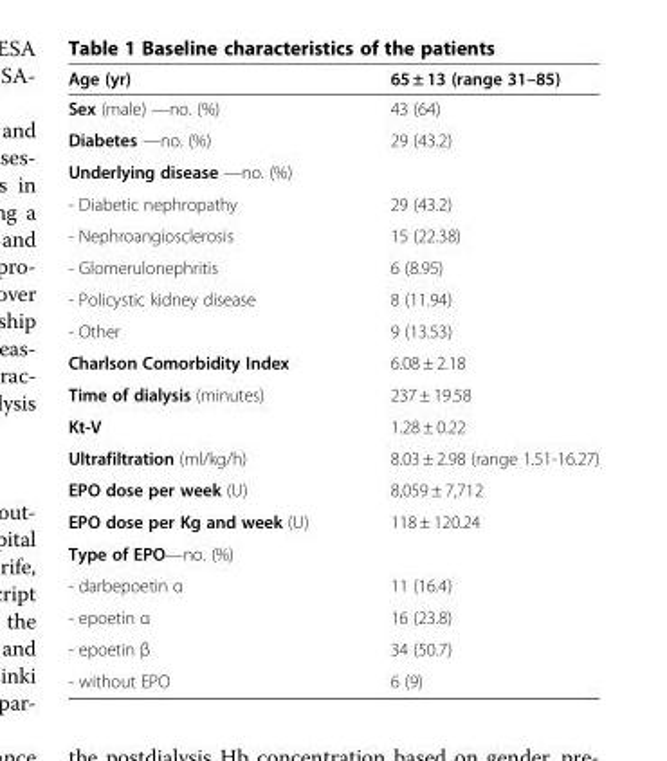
<table><thead><tr><td>Age (yr)</td><td>65 ± 13 (range 31–85)</td></tr></thead><tbody><tr><td>Sex (male) —no. (%)</td><td>43 (64)</td></tr><tr><td>Diabetes —no. (%)</td><td>29 (43.2)</td></tr><tr><td colspan="2">Underlying disease —no. (%)</td></tr><tr><td>- Diabetic nephropathy</td><td>29 (43.2)</td></tr><tr><td>- Nephroangiosclerosis</td><td>15 (22.38)</td></tr><tr><td>- Glomerulonephritis</td><td>6 (8.95)</td></tr><tr><td>- Policystic kidney disease</td><td>8 (11.94)</td></tr><tr><td>- Other</td><td>9 (13.53)</td></tr><tr><td>Charlson Comorbidity Index</td><td>6.08 ± 2.18</td></tr><tr><td>Time of dialysis (minutes)</td><td>237 ± 19.58</td></tr><tr><td>Kt-V</td><td>1.28 ± 0.22</td></tr><tr><td>Ultrafiltration (ml/kg/h)</td><td>8.03 ± 2.98 (range 1.51-16.27)</td></tr><tr><td>EPO dose per week (U)</td><td>8,059 ± 7,712</td></tr><tr><td>EPO dose per Kg and week (U)</td><td>118 ± 120.24</td></tr><tr><td colspan="2">Type of EPO—no. (%)</td></tr><tr><td>- darbepoetin α</td><td>11 (16.4)</td></tr><tr><td>- epoetin α</td><td>16 (23.8)</td></tr><tr><td>- epoetin β</td><td>34 (50.7)</td></tr><tr><td>- without EPO</td><td>6 (9)</td></tr></tbody></table>